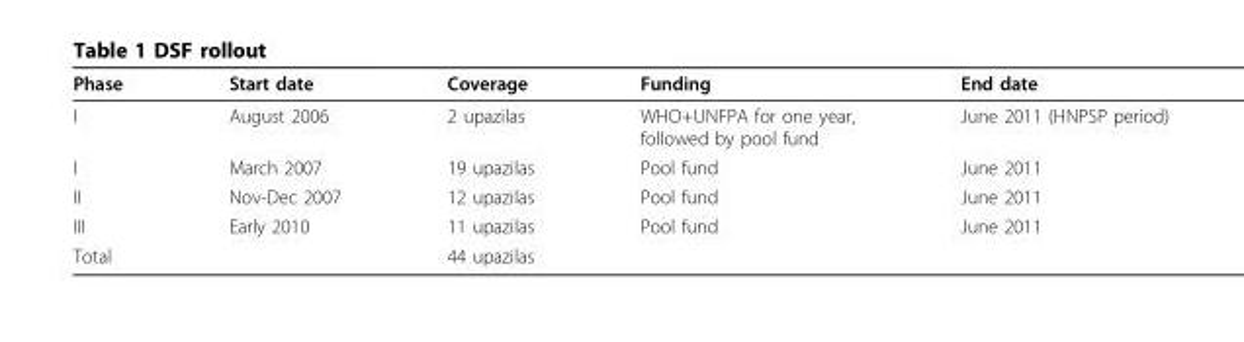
<table><thead><tr><td>Phase</td><td>Start date</td><td>Coverage</td><td>Funding</td><td>End date</td></tr></thead><tbody><tr><td>I</td><td>August 2006</td><td>2 upazilas</td><td>WHO+UNFPA for one year, followed by pool fund</td><td>June 2011 (HNPSP period)</td></tr><tr><td>I</td><td>March 2007</td><td>19 upazilas</td><td>Pool fund</td><td>June 2011</td></tr><tr><td>II</td><td>Nov-Dec 2007</td><td>12 upazilas</td><td>Pool fund</td><td>June 2011</td></tr><tr><td>III</td><td>Early 2010</td><td>11 upazilas</td><td>Pool fund</td><td>June 2011</td></tr><tr><td>Total</td><td></td><td>44 upazilas</td><td></td><td></td></tr></tbody></table>